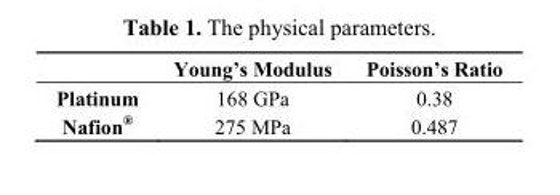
<table><thead><tr><td></td><td>Young’s Modulus</td><td>Poisson’s Ratio</td></tr></thead><tbody><tr><td>Platinum</td><td>168 GPa</td><td>0.38</td></tr><tr><td>Nafion<sup>®</sup></td><td>275 MPa</td><td>0.487</td></tr></tbody></table>